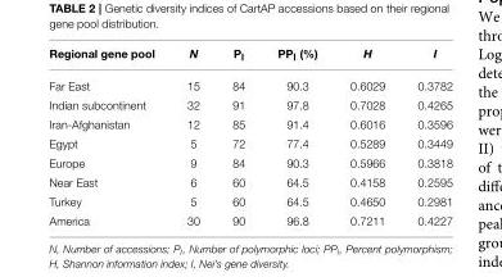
<table><thead><tr><td>Regional gene pool</td><td>N</td><td>P<sub>l</sub></td><td>PP<sub>l</sub> (%)</td><td>H</td><td>I</td></tr></thead><tbody><tr><td>Far East</td><td>15</td><td>84</td><td>90.3</td><td>0.6029</td><td>0.3782</td></tr><tr><td>Indian subcontinent</td><td>32</td><td>91</td><td>97.8</td><td>0.7028</td><td>0.4265</td></tr><tr><td>Iran-Afghanistan</td><td>12</td><td>85</td><td>91.4</td><td>0.6016</td><td>0.3596</td></tr><tr><td>Egypt</td><td>5</td><td>72</td><td>77.4</td><td>0.5289</td><td>0.3449</td></tr><tr><td>Europe</td><td>9</td><td>84</td><td>90.3</td><td>0.5966</td><td>0.3818</td></tr><tr><td>Near East</td><td>6</td><td>60</td><td>64.5</td><td>0.4158</td><td>0.2595</td></tr><tr><td>Turkey</td><td>5</td><td>60</td><td>64.5</td><td>0.4650</td><td>0.2981</td></tr><tr><td>America</td><td>30</td><td>90</td><td>96.8</td><td>0.7211</td><td>0.4227</td></tr></tbody></table>